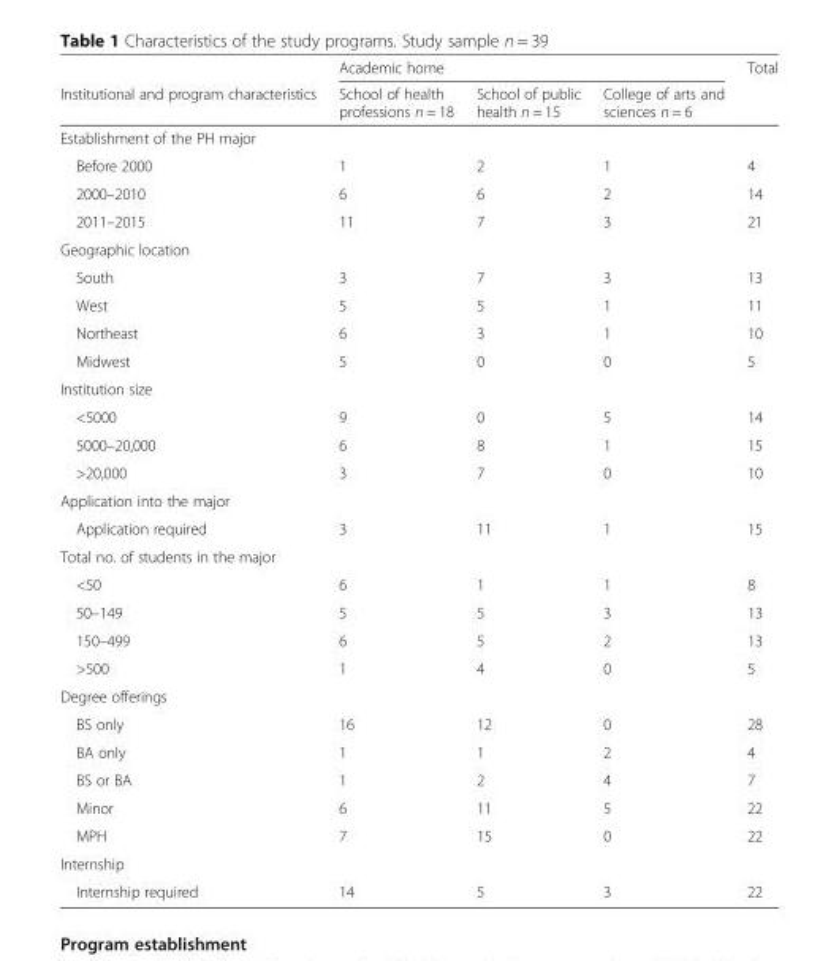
<table><thead><tr><td rowspan="2">Institutional and program characteristics</td><td colspan="3">Academic home</td><td rowspan="2">Total</td></tr><tr><td>School of health professions n = 18</td><td>School of public health n = 15</td><td>College of arts and sciences n = 6</td></tr></thead><tbody><tr><td colspan="5">Establishment of the PH major</td></tr><tr><td>Before 2000</td><td>1</td><td>2</td><td>1</td><td>4</td></tr><tr><td>2000–2010</td><td>6</td><td>6</td><td>2</td><td>14</td></tr><tr><td>2011–2015</td><td>11</td><td>7</td><td>3</td><td>21</td></tr><tr><td colspan="5">Geographic location</td></tr><tr><td>South</td><td>3</td><td>7</td><td>3</td><td>13</td></tr><tr><td>West</td><td>5</td><td>5</td><td>1</td><td>11</td></tr><tr><td>Northeast</td><td>6</td><td>3</td><td>1</td><td>10</td></tr><tr><td>Midwest</td><td>5</td><td>0</td><td>0</td><td>5</td></tr><tr><td colspan="5">Institution size</td></tr><tr><td>&lt;5000</td><td>9</td><td>0</td><td>5</td><td>14</td></tr><tr><td>5000–20,000</td><td>6</td><td>8</td><td>1</td><td>15</td></tr><tr><td>&gt;20,000</td><td>3</td><td>7</td><td>0</td><td>10</td></tr><tr><td colspan="5">Application into the major</td></tr><tr><td>Application required</td><td>3</td><td>11</td><td>1</td><td>15</td></tr><tr><td colspan="5">Total no. of students in the major</td></tr><tr><td>&lt;50</td><td>6</td><td>1</td><td>1</td><td>8</td></tr><tr><td>50–149</td><td>5</td><td>5</td><td>3</td><td>13</td></tr><tr><td>150–499</td><td>6</td><td>5</td><td>2</td><td>13</td></tr><tr><td>&gt;500</td><td>1</td><td>4</td><td>0</td><td>5</td></tr><tr><td colspan="5">Degree offerings</td></tr><tr><td>BS only</td><td>16</td><td>12</td><td>0</td><td>28</td></tr><tr><td>BA only</td><td>1</td><td>1</td><td>2</td><td>4</td></tr><tr><td>BS or BA</td><td>1</td><td>2</td><td>4</td><td>7</td></tr><tr><td>Minor</td><td>6</td><td>11</td><td>5</td><td>22</td></tr><tr><td>MPH</td><td>7</td><td>15</td><td>0</td><td>22</td></tr><tr><td colspan="5">Internship</td></tr><tr><td>Internship required</td><td>14</td><td>5</td><td>3</td><td>22</td></tr></tbody></table>